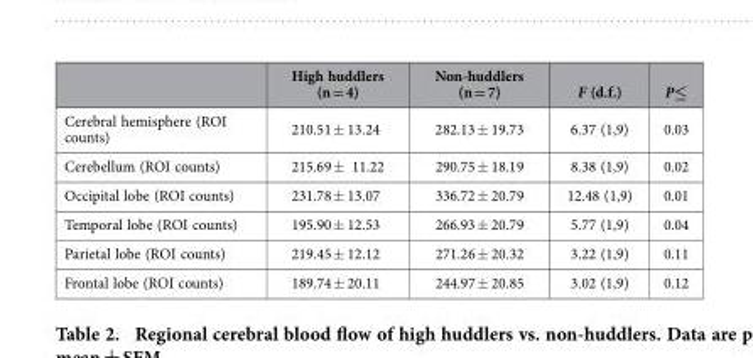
<table><thead><tr><td></td><td>High huddlers (n = 4)</td><td>Non-huddlers (n = 7)</td><td>F (d.f.)</td><td>P≤</td></tr></thead><tbody><tr><td>Cerebral hemisphere (ROI counts)</td><td>210.51 ± 13.24</td><td>282.13 ± 19.73</td><td>6.37 (1,9)</td><td>0.03</td></tr><tr><td>Cerebellum (ROI counts)</td><td>215.69 ± 11.22</td><td>290.75 ± 18.19</td><td>8.38 (1,9)</td><td>0.02</td></tr><tr><td>Occipital lobe (ROI counts)</td><td>231.78 ± 13.07</td><td>336.72 ± 20.79</td><td>12.48 (1,9)</td><td>0.01</td></tr><tr><td>Temporal lobe (ROI counts)</td><td>195.90 ± 12.53</td><td>266.93 ± 20.79</td><td>5.77 (1,9)</td><td>0.04</td></tr><tr><td>Parietal lobe (ROI counts)</td><td>219.45 ± 12.12</td><td>271.26 ± 20.32</td><td>3.22 (1,9)</td><td>0.11</td></tr><tr><td>Frontal lobe (ROI counts)</td><td>189.74 ± 20.11</td><td>244.97 ± 20.85</td><td>3.02 (1,9)</td><td>0.12</td></tr></tbody></table>